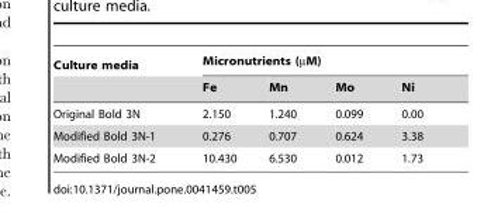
<table><thead><tr><td rowspan="2">Culture media</td><td colspan="4">Micronutrients (µM)</td></tr><tr><td>Fe</td><td>Mn</td><td>Mo</td><td>Ni</td></tr></thead><tbody><tr><td>Original Bold 3N</td><td>2.150</td><td>1.240</td><td>0.099</td><td>0.00</td></tr><tr><td>Modified Bold 3N-1</td><td>0.276</td><td>0.707</td><td>0.624</td><td>3.38</td></tr><tr><td>Modified Bold 3N-2</td><td>10.430</td><td>6.530</td><td>0.012</td><td>1.73</td></tr></tbody></table>